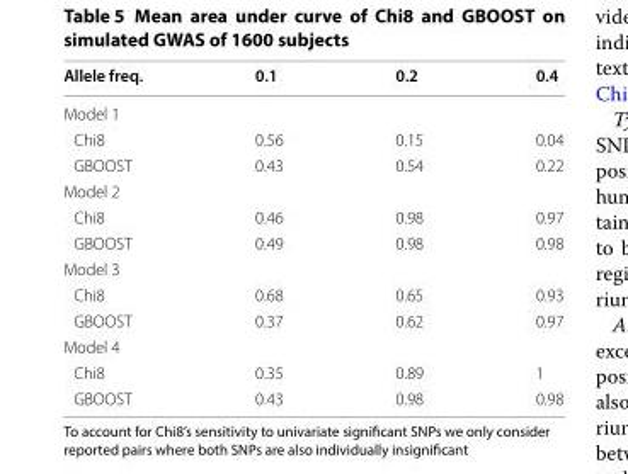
<table><thead><tr><td>Allele freq.</td><td>0.1</td><td>0.2</td><td>0.4</td></tr></thead><tbody><tr><td colspan="4">Model 1</td></tr><tr><td>Chi8</td><td>0.56</td><td>0.15</td><td>0.04</td></tr><tr><td>GBOOST</td><td>0.43</td><td>0.54</td><td>0.22</td></tr><tr><td colspan="4">Model 2</td></tr><tr><td>Chi8</td><td>0.46</td><td>0.98</td><td>0.97</td></tr><tr><td>GBOOST</td><td>0.49</td><td>0.98</td><td>0.98</td></tr><tr><td colspan="4">Model 3</td></tr><tr><td>Chi8</td><td>0.68</td><td>0.65</td><td>0.93</td></tr><tr><td>GBOOST</td><td>0.37</td><td>0.62</td><td>0.97</td></tr><tr><td colspan="4">Model 4</td></tr><tr><td>Chi8</td><td>0.35</td><td>0.89</td><td>1</td></tr><tr><td>GBOOST</td><td>0.43</td><td>0.98</td><td>0.98</td></tr></tbody></table>